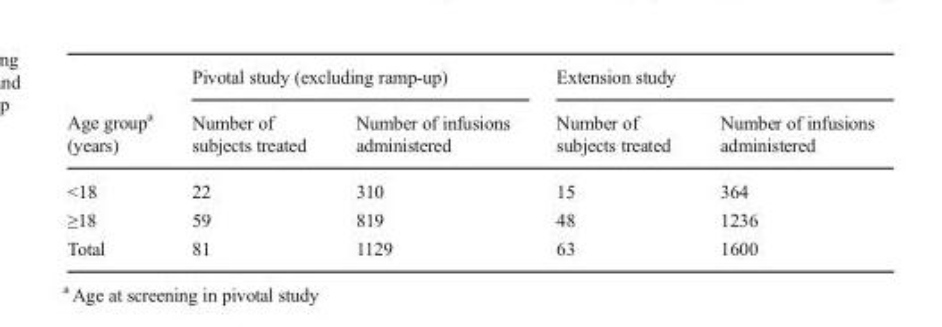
<table><thead><tr><td rowspan="2">Age group<sup>a</sup> (years)</td><td colspan="2">Pivotal study (excluding ramp-up)</td><td colspan="2">Extension study</td></tr><tr><td>Number of subjects treated</td><td>Number of infusions administered</td><td>Number of subjects treated</td><td>Number of infusions administered</td></tr></thead><tbody><tr><td>&lt;18</td><td>22</td><td>310</td><td>15</td><td>364</td></tr><tr><td>≥18</td><td>59</td><td>819</td><td>48</td><td>1236</td></tr><tr><td>Total</td><td>81</td><td>1129</td><td>63</td><td>1600</td></tr></tbody></table>